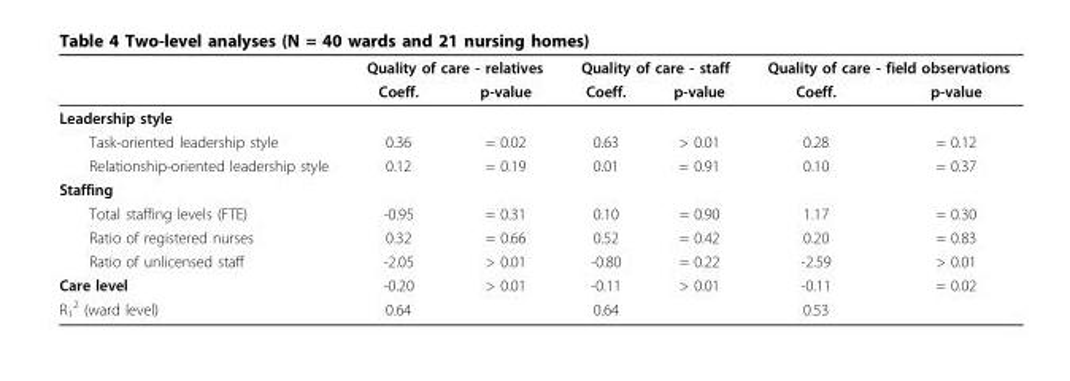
<table><thead><tr><td rowspan="2"></td><td colspan="2">Quality of care - relatives</td><td colspan="2">Quality of care - staff</td><td colspan="2">Quality of care - field observations</td></tr><tr><td>Coeff.</td><td>p-value</td><td>Coeff.</td><td>p-value</td><td>Coeff.</td><td>p-value</td></tr></thead><tbody><tr><td colspan="7">Leadership style</td></tr><tr><td>Task-oriented leadership style</td><td>0.36</td><td>= 0.02</td><td>0.63</td><td>&gt; 0.01</td><td>0.28</td><td>= 0.12</td></tr><tr><td>Relationship-oriented leadership style</td><td>0.12</td><td>= 0.19</td><td>0.01</td><td>= 0.91</td><td>0.10</td><td>= 0.37</td></tr><tr><td colspan="7">Staffing</td></tr><tr><td>Total staffing levels (FTE)</td><td>-0.95</td><td>= 0.31</td><td>0.10</td><td>= 0.90</td><td>1.17</td><td>= 0.30</td></tr><tr><td>Ratio of registered nurses</td><td>0.32</td><td>= 0.66</td><td>0.52</td><td>= 0.42</td><td>0.20</td><td>= 0.83</td></tr><tr><td>Ratio of unlicensed staff</td><td>-2.05</td><td>&gt; 0.01</td><td>-0.80</td><td>= 0.22</td><td>-2.59</td><td>&gt; 0.01</td></tr><tr><td>Care level</td><td>-0.20</td><td>&gt; 0.01</td><td>-0.11</td><td>&gt; 0.01</td><td>-0.11</td><td>= 0.02</td></tr><tr><td>R<sub>1</sub> <sup>2</sup> (ward level)</td><td>0.64</td><td></td><td>0.64</td><td></td><td>0.53</td><td></td></tr></tbody></table>